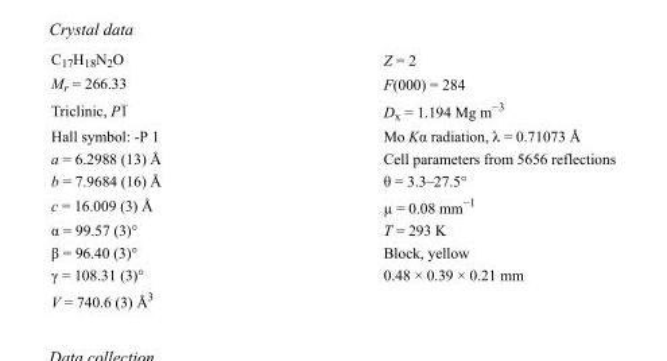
<table><tbody><tr><td>C<sub>17</sub>H<sub>18</sub>N<sub>2</sub>O</td><td>Z = 2</td></tr><tr><td>M<sub>r</sub> = 266.33</td><td>F(000) = 284</td></tr><tr><td>Triclinic, P1</td><td>D<sub>x</sub> = 1.194 Mg m<sup>−3</sup></td></tr><tr><td>Hall symbol: -P 1</td><td>Mo Kα radiation, λ = 0.71073 Å</td></tr><tr><td>a = 6.2988 (13) Å</td><td>Cell parameters from 5656 reflections</td></tr><tr><td>b = 7.9684 (16) Å</td><td>θ = 3.3–27.5°</td></tr><tr><td>c = 16.009 (3) Å</td><td>µ = 0.08 mm<sup>−1</sup></td></tr><tr><td>α = 99.57 (3)°</td><td>T = 293 K</td></tr><tr><td>β = 96.40 (3)°</td><td>Block, yellow</td></tr><tr><td>γ = 108.31 (3)°</td><td>0.48 × 0.39 × 0.21 mm</td></tr><tr><td>V = 740.6 (3) Å<sup>3</sup></td><td></td></tr></tbody></table>